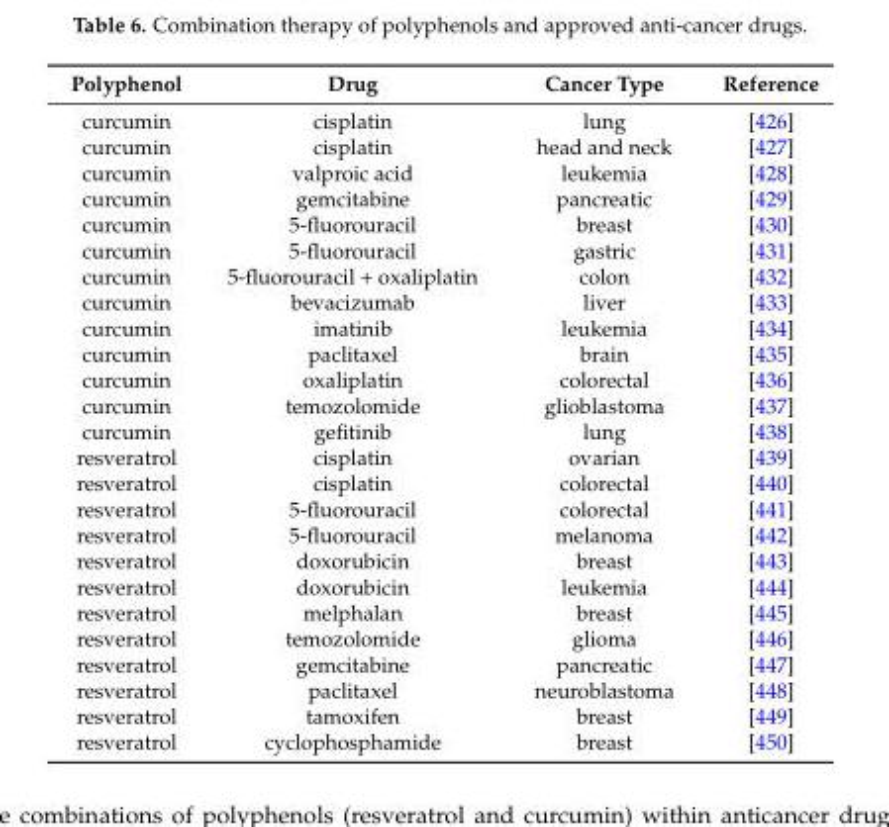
<table><thead><tr><td>Polyphenol</td><td>Drug</td><td>Cancer Type</td><td>Reference</td></tr></thead><tbody><tr><td>curcumin</td><td>cisplatin</td><td>lung</td><td>[426]</td></tr><tr><td>curcumin</td><td>cisplatin</td><td>head and neck</td><td>[427]</td></tr><tr><td>curcumin</td><td>valproic acid</td><td>leukemia</td><td>[428]</td></tr><tr><td>curcumin</td><td>gemcitabine</td><td>pancreatic</td><td>[429]</td></tr><tr><td>curcumin</td><td>5-fluorouracil</td><td>breast</td><td>[430]</td></tr><tr><td>curcumin</td><td>5-fluorouracil</td><td>gastric</td><td>[431]</td></tr><tr><td>curcumin</td><td>5-fluorouracil + oxaliplatin</td><td>colon</td><td>[432]</td></tr><tr><td>curcumin</td><td>bevacizumab</td><td>liver</td><td>[433]</td></tr><tr><td>curcumin</td><td>imatinib</td><td>leukemia</td><td>[434]</td></tr><tr><td>curcumin</td><td>paclitaxel</td><td>brain</td><td>[435]</td></tr><tr><td>curcumin</td><td>oxaliplatin</td><td>colorectal</td><td>[436]</td></tr><tr><td>curcumin</td><td>temozolomide</td><td>glioblastoma</td><td>[437]</td></tr><tr><td>curcumin</td><td>gefitinib</td><td>lung</td><td>[438]</td></tr><tr><td>resveratrol</td><td>cisplatin</td><td>ovarian</td><td>[439]</td></tr><tr><td>resveratrol</td><td>cisplatin</td><td>colorectal</td><td>[440]</td></tr><tr><td>resveratrol</td><td>5-fluorouracil</td><td>colorectal</td><td>[441]</td></tr><tr><td>resveratrol</td><td>5-fluorouracil</td><td>melanoma</td><td>[442]</td></tr><tr><td>resveratrol</td><td>doxorubicin</td><td>breast</td><td>[443]</td></tr><tr><td>resveratrol</td><td>doxorubicin</td><td>leukemia</td><td>[444]</td></tr><tr><td>resveratrol</td><td>melphalan</td><td>breast</td><td>[445]</td></tr><tr><td>resveratrol</td><td>temozolomide</td><td>glioma</td><td>[446]</td></tr><tr><td>resveratrol</td><td>gemcitabine</td><td>pancreatic</td><td>[447]</td></tr><tr><td>resveratrol</td><td>paclitaxel</td><td>neuroblastoma</td><td>[448]</td></tr><tr><td>resveratrol</td><td>tamoxifen</td><td>breast</td><td>[449]</td></tr><tr><td>resveratrol</td><td>cyclophosphamide</td><td>breast</td><td>[450]</td></tr></tbody></table>